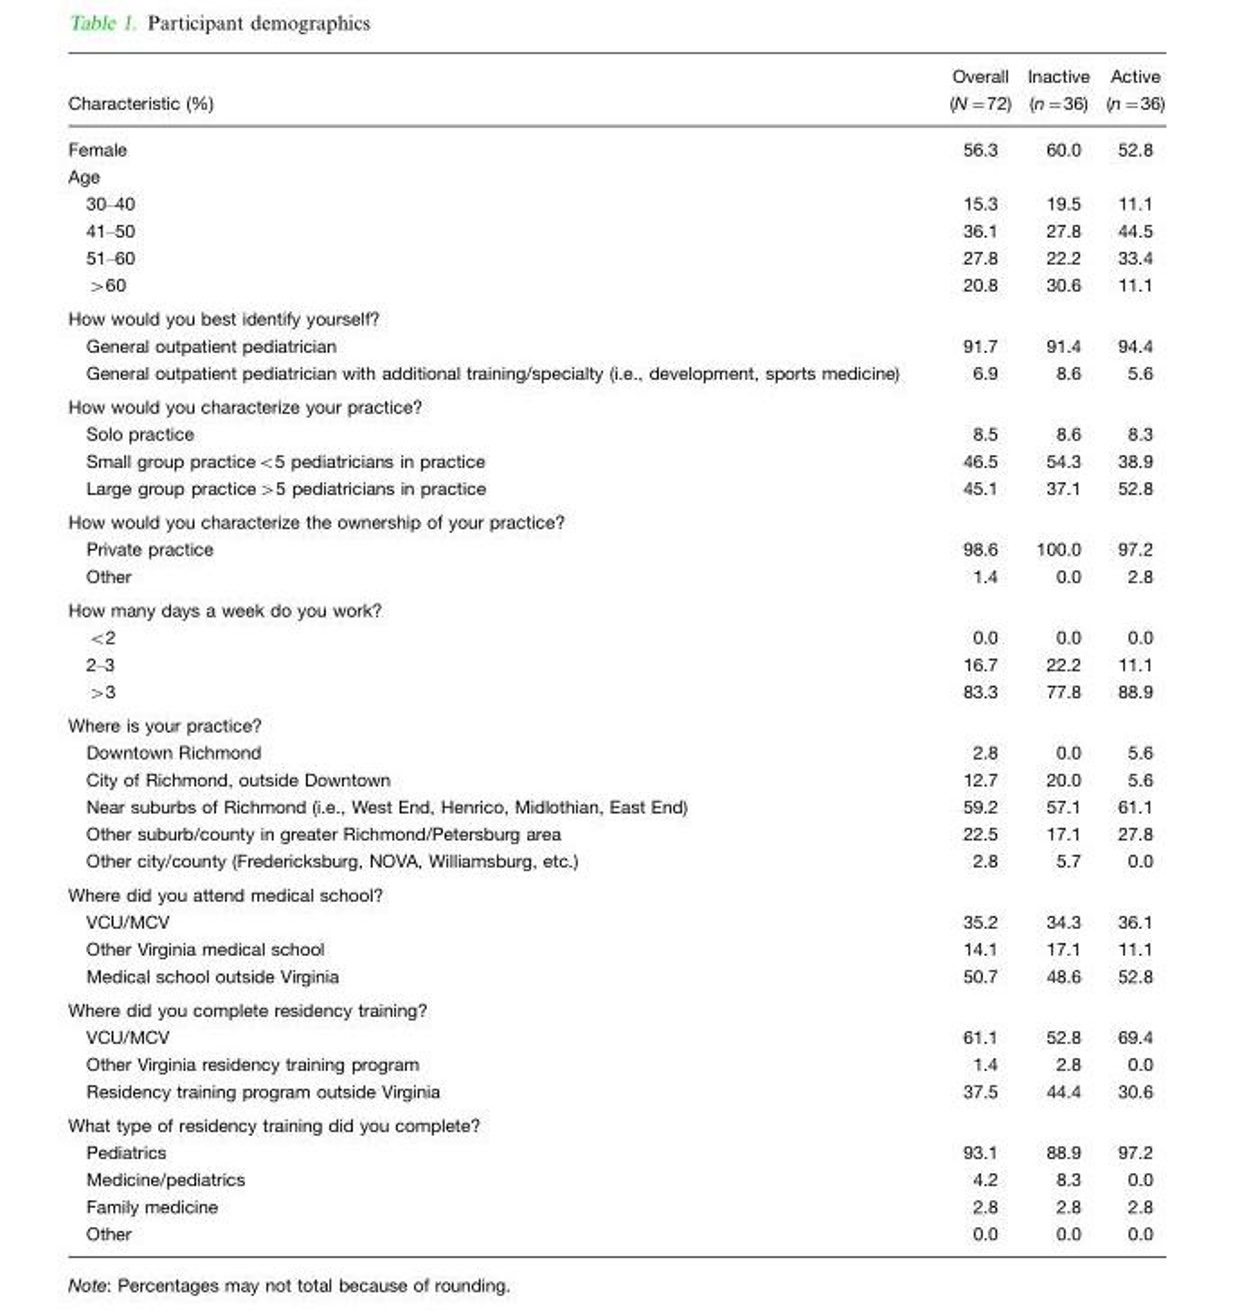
<table><thead><tr><td>Characteristic (%)</td><td>Overall (N=72)</td><td>Inactive (n=36)</td><td>Active (n=36)</td></tr></thead><tbody><tr><td>Female</td><td>56.3</td><td>60.0</td><td>52.8</td></tr><tr><td colspan="4">Age</td></tr><tr><td>30–40</td><td>15.3</td><td>19.5</td><td>11.1</td></tr><tr><td>41–50</td><td>36.1</td><td>27.8</td><td>44.5</td></tr><tr><td>51–60</td><td>27.8</td><td>22.2</td><td>33.4</td></tr><tr><td>&gt;60</td><td>20.8</td><td>30.6</td><td>11.1</td></tr><tr><td colspan="4">How would you best identify yourself?</td></tr><tr><td>General outpatient pediatrician</td><td>91.7</td><td>91.4</td><td>94.4</td></tr><tr><td>General outpatient pediatrician with additional training/specialty (i.e., development, sports medicine)</td><td>6.9</td><td>8.6</td><td>5.6</td></tr><tr><td colspan="4">How would you characterize your practice?</td></tr><tr><td>Solo practice</td><td>8.5</td><td>8.6</td><td>8.3</td></tr><tr><td>Small group practice&lt;5 pediatricians in practice</td><td>46.5</td><td>54.3</td><td>38.9</td></tr><tr><td>Large group practice&gt;5 pediatricians in practice</td><td>45.1</td><td>37.1</td><td>52.8</td></tr><tr><td colspan="4">How would you characterize the ownership of your practice?</td></tr><tr><td>Private practice</td><td>98.6</td><td>100.0</td><td>97.2</td></tr><tr><td>Other</td><td>1.4</td><td>0.0</td><td>2.8</td></tr><tr><td colspan="4">How many days a week do you work?</td></tr><tr><td>&lt;2</td><td>0.0</td><td>0.0</td><td>0.0</td></tr><tr><td>2–3</td><td>16.7</td><td>22.2</td><td>11.1</td></tr><tr><td>&gt;3</td><td>83.3</td><td>77.8</td><td>88.9</td></tr><tr><td colspan="4">Where is your practice?</td></tr><tr><td>Downtown Richmond</td><td>2.8</td><td>0.0</td><td>5.6</td></tr><tr><td>City of Richmond, outside Downtown</td><td>12.7</td><td>20.0</td><td>5.6</td></tr><tr><td>Near suburbs of Richmond (i.e., West End, Henrico, Midlothian, East End)</td><td>59.2</td><td>57.1</td><td>61.1</td></tr><tr><td>Other suburb/county in greater Richmond/Petersburg area</td><td>22.5</td><td>17.1</td><td>27.8</td></tr><tr><td>Other city/county (Fredericksburg, NOVA, Williamsburg, etc.)</td><td>2.8</td><td>5.7</td><td>0.0</td></tr><tr><td colspan="4">Where did you attend medical school?</td></tr><tr><td>VCU/MCV</td><td>35.2</td><td>34.3</td><td>36.1</td></tr><tr><td>Other Virginia medical school</td><td>14.1</td><td>17.1</td><td>11.1</td></tr><tr><td>Medical school outside Virginia</td><td>50.7</td><td>48.6</td><td>52.8</td></tr><tr><td colspan="4">Where did you complete residency training?</td></tr><tr><td>VCU/MCV</td><td>61.1</td><td>52.8</td><td>69.4</td></tr><tr><td>Other Virginia residency training program</td><td>1.4</td><td>2.8</td><td>0.0</td></tr><tr><td>Residency training program outside Virginia</td><td>37.5</td><td>44.4</td><td>30.6</td></tr><tr><td colspan="4">What type of residency training did you complete?</td></tr><tr><td>Pediatrics</td><td>93.1</td><td>88.9</td><td>97.2</td></tr><tr><td>Medicine/pediatrics</td><td>4.2</td><td>8.3</td><td>0.0</td></tr><tr><td>Family medicine</td><td>2.8</td><td>2.8</td><td>2.8</td></tr><tr><td>Other</td><td>0.0</td><td>0.0</td><td>0.0</td></tr></tbody></table>